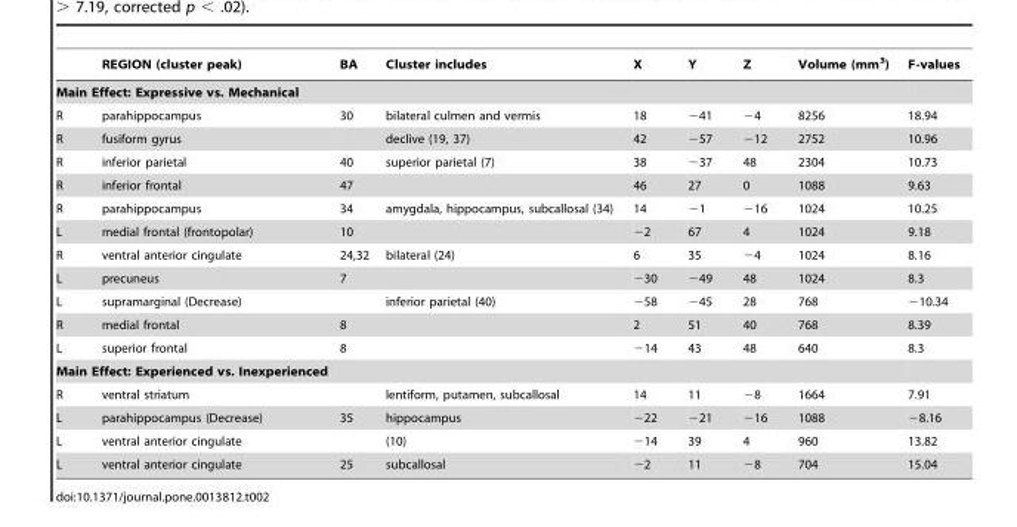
<table><thead><tr><td></td><td>REGION (cluster peak)</td><td>BA</td><td>Cluster includes</td><td>X</td><td>Y</td><td>Z</td><td>Volume (mm<sup>3</sup>)</td><td>F-values</td></tr></thead><tbody><tr><td colspan="9">Main Effect: Expressive vs. Mechanical</td></tr><tr><td>R</td><td>parahippocampus</td><td>30</td><td>bilateral culmen and vermis</td><td>18</td><td>−41</td><td>−4</td><td>8256</td><td>18.94</td></tr><tr><td>R</td><td>fusiform gyrus</td><td></td><td>declive (19, 37)</td><td>42</td><td>−57</td><td>−12</td><td>2752</td><td>10.96</td></tr><tr><td>R</td><td>inferior parietal</td><td>40</td><td>superior parietal (7)</td><td>38</td><td>−37</td><td>48</td><td>2304</td><td>10.73</td></tr><tr><td>R</td><td>inferior frontal</td><td>47</td><td></td><td>46</td><td>27</td><td>0</td><td>1088</td><td>9.63</td></tr><tr><td>R</td><td>parahippocampus</td><td>34</td><td>amygdala, hippocampus, subcallosal (34)</td><td>14</td><td>−1</td><td>−16</td><td>1024</td><td>10.25</td></tr><tr><td>L</td><td>medial frontal (frontopolar)</td><td>10</td><td></td><td>−2</td><td>67</td><td>4</td><td>1024</td><td>9.18</td></tr><tr><td>R</td><td>ventral anterior cingulate</td><td>24,32</td><td>bilateral (24)</td><td>6</td><td>35</td><td>−4</td><td>1024</td><td>8.16</td></tr><tr><td>L</td><td>precuneus</td><td>7</td><td></td><td>−30</td><td>−49</td><td>48</td><td>1024</td><td>8.3</td></tr><tr><td>L</td><td>supramarginal (Decrease)</td><td></td><td>inferior parietal (40)</td><td>−58</td><td>−45</td><td>28</td><td>768</td><td>−10.34</td></tr><tr><td>R</td><td>medial frontal</td><td>8</td><td></td><td>2</td><td>51</td><td>40</td><td>768</td><td>8.39</td></tr><tr><td>L</td><td>superior frontal</td><td>8</td><td></td><td>−14</td><td>43</td><td>48</td><td>640</td><td>8.3</td></tr><tr><td colspan="9">Main Effect: Experienced vs. Inexperienced</td></tr><tr><td>R</td><td>ventral striatum</td><td></td><td>lentiform, putamen, subcallosal</td><td>14</td><td>11</td><td>−8</td><td>1664</td><td>7.91</td></tr><tr><td>L</td><td>parahippocampus (Decrease)</td><td>35</td><td>hippocampus</td><td>−22</td><td>−21</td><td>−16</td><td>1088</td><td>−8.16</td></tr><tr><td>L</td><td>ventral anterior cingulate</td><td></td><td>(10)</td><td>−14</td><td>39</td><td>4</td><td>960</td><td>13.82</td></tr><tr><td>L</td><td>ventral anterior cingulate</td><td>25</td><td>subcallosal</td><td>−2</td><td>11</td><td>−8</td><td>704</td><td>15.04</td></tr></tbody></table>